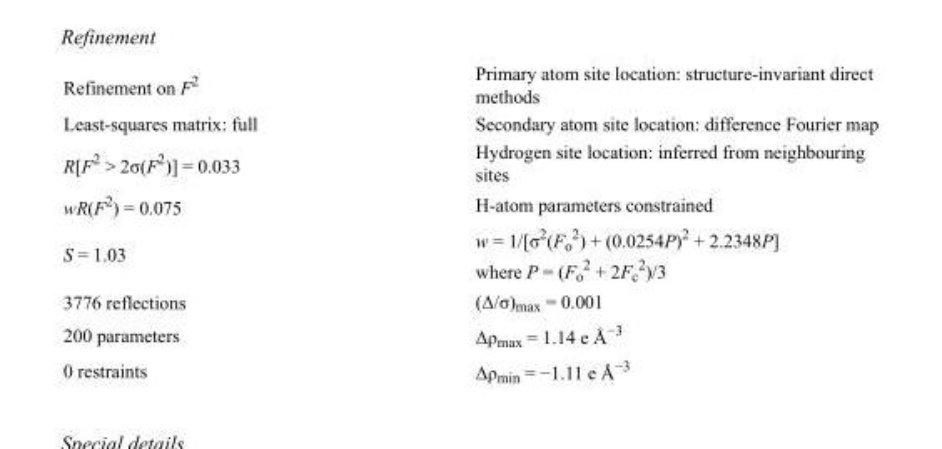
<table><tbody><tr><td>Refinement on F<sup>2</sup></td><td>Primary atom site location: structure-invariant direct methods</td></tr><tr><td>Least-squares matrix: full</td><td>Secondary atom site location: difference Fourier map</td></tr><tr><td>R[F<sup>2</sup> &gt; 2σ(F<sup>2</sup>)] = 0.033</td><td>Hydrogen site location: inferred from neighbouring sites</td></tr><tr><td>wR(F<sup>2</sup>) = 0.075</td><td>H-atom parameters constrained</td></tr><tr><td>S = 1.03</td><td>w = 1/[σ<sup>2</sup>(F<sub>o</sub> <sup>2</sup>) + (0.0254P)<sup>2</sup> + 2.2348P] where P = (F<sub>o</sub> <sup>2</sup> + 2F<sub>c</sub> <sup>2</sup>)/3</td></tr><tr><td>3776 reflections</td><td>(Δ/σ)<sub>max</sub> = 0.001</td></tr><tr><td>200 parameters</td><td>Δρ<sub>max</sub> = 1.14 e Å<sup>−3</sup></td></tr><tr><td>0 restraints</td><td>Δρ<sub>min</sub> = −1.11 e Å<sup>−3</sup></td></tr></tbody></table>